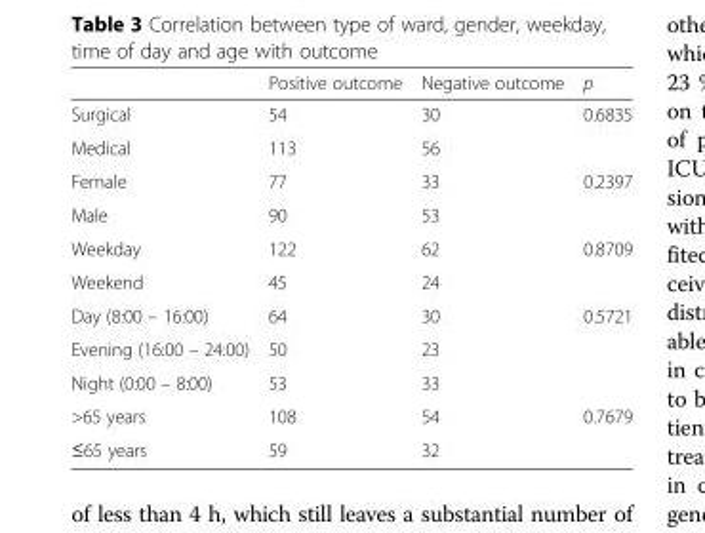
<table><thead><tr><td></td><td>Positive outcome</td><td>Negative outcome</td><td>p</td></tr></thead><tbody><tr><td>Surgical</td><td>54</td><td>30</td><td rowspan="2">0.6835</td></tr><tr><td>Medical</td><td>113</td><td>56</td></tr><tr><td>Female</td><td>77</td><td>33</td><td rowspan="2">0.2397</td></tr><tr><td>Male</td><td>90</td><td>53</td></tr><tr><td>Weekday</td><td>122</td><td>62</td><td rowspan="2">0.8709</td></tr><tr><td>Weekend</td><td>45</td><td>24</td></tr><tr><td>Day (8:00 – 16:00)</td><td>64</td><td>30</td><td rowspan="3">0.5721</td></tr><tr><td>Evening (16:00 – 24:00)</td><td>50</td><td>23</td></tr><tr><td>Night (0:00 – 8:00)</td><td>53</td><td>33</td></tr><tr><td>&gt;65 years</td><td>108</td><td>54</td><td rowspan="2">0.7679</td></tr><tr><td>≤65 years</td><td>59</td><td>32</td></tr></tbody></table>